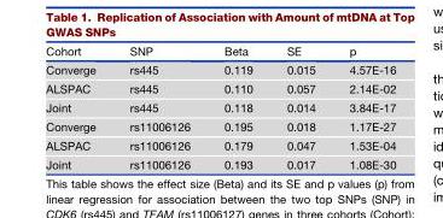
<table><thead><tr><td>Cohort</td><td>SNP</td><td>Beta</td><td>SE</td><td>p</td></tr></thead><tbody><tr><td>Converge</td><td>rs445</td><td>0.119</td><td>0.015</td><td>4.57E-16</td></tr><tr><td>ALSPAC</td><td>rs445</td><td>0.110</td><td>0.057</td><td>2.14E-02</td></tr><tr><td>Joint</td><td>rs445</td><td>0.118</td><td>0.014</td><td>3.84E-17</td></tr><tr><td>Converge</td><td>rs11006126</td><td>0.195</td><td>0.018</td><td>1.17E-27</td></tr><tr><td>ALSPAC</td><td>rs11006126</td><td>0.179</td><td>0.047</td><td>1.53E-04</td></tr><tr><td>Joint</td><td>rs11006126</td><td>0.193</td><td>0.017</td><td>1.08E-30</td></tr></tbody></table>